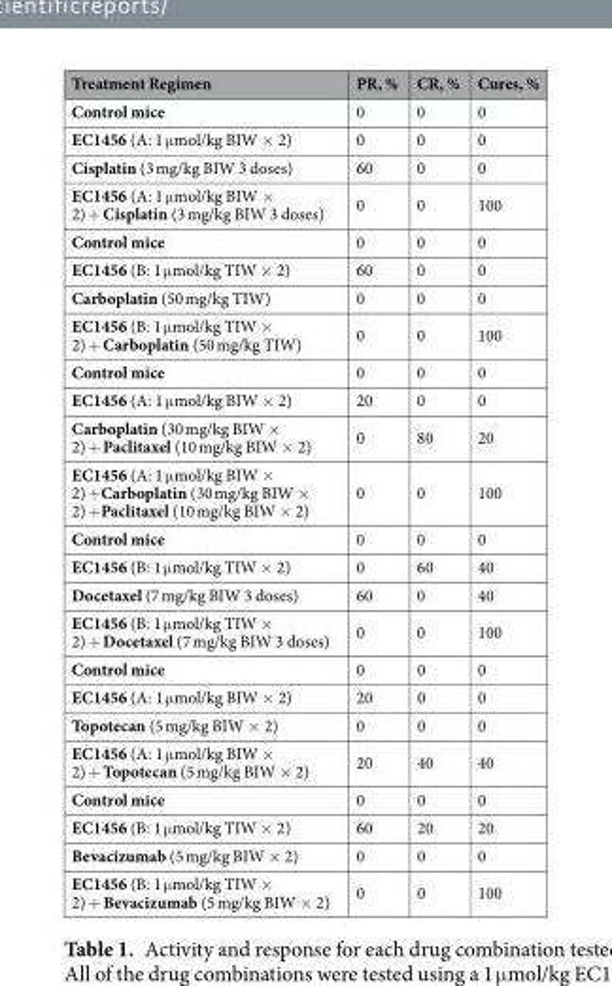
<table><thead><tr><td>Treatment Regimen</td><td>PR, %</td><td>CR, %</td><td>Cures, %</td></tr></thead><tbody><tr><td>Control mice</td><td>0</td><td>0</td><td>0</td></tr><tr><td>EC1456 (A: 1 μmol/kg BIW × 2)</td><td>0</td><td>0</td><td>0</td></tr><tr><td>Cisplatin (3 mg/kg BIW 3 doses)</td><td>60</td><td>0</td><td>0</td></tr><tr><td>EC1456 (A: 1 μmol/kg BIW × 2) + Cisplatin (3 mg/kg BIW 3 doses)</td><td>0</td><td>0</td><td>100</td></tr><tr><td>Control mice</td><td>0</td><td>0</td><td>0</td></tr><tr><td>EC1456 (B: 1 μmol/kg TIW × 2)</td><td>60</td><td>0</td><td>0</td></tr><tr><td>Carboplatin (50 mg/kg TIW)</td><td>0</td><td>0</td><td>0</td></tr><tr><td>EC1456 (B: 1 μmol/kg TIW × 2) + Carboplatin (50 mg/kg TIW)</td><td>0</td><td>0</td><td>100</td></tr><tr><td>Control mice</td><td>0</td><td>0</td><td>0</td></tr><tr><td>EC1456 (A: 1 μmol/kg BIW × 2)</td><td>20</td><td>0</td><td>0</td></tr><tr><td>Carboplatin (30 mg/kg BIW × 2) + Paclitaxel (10 mg/kg BIW × 2)</td><td>0</td><td>80</td><td>20</td></tr><tr><td>EC1456 (A: 1 μmol/kg BIW × 2) +Carboplatin (30 mg/kg BIW × 2) +Paclitaxel (10 mg/kg BIW × 2)</td><td>0</td><td>0</td><td>100</td></tr><tr><td>Control mice</td><td>0</td><td>0</td><td>0</td></tr><tr><td>EC1456 (B: 1 μmol/kg TIW × 2)</td><td>0</td><td>60</td><td>40</td></tr><tr><td>Docetaxel (7 mg/kg BIW 3 doses)</td><td>60</td><td>0</td><td>40</td></tr><tr><td>EC1456 (B: 1 μmol/kg TIW × 2) + Docetaxel (7 mg/kg BIW 3 doses)</td><td>0</td><td>0</td><td>100</td></tr><tr><td>Control mice</td><td>0</td><td>0</td><td>0</td></tr><tr><td>EC1456 (A: 1 μmol/kg BIW × 2)</td><td>20</td><td>0</td><td>0</td></tr><tr><td>Topotecan (5 mg/kg BIW × 2)</td><td>0</td><td>0</td><td>0</td></tr><tr><td>EC1456 (A: 1 μmol/kg BIW × 2) + Topotecan (5 mg/kg BIW × 2)</td><td>20</td><td>40</td><td>40</td></tr><tr><td>Control mice</td><td>0</td><td>0</td><td>0</td></tr><tr><td>EC1456 (B: 1 μmol/kg TIW × 2)</td><td>60</td><td>20</td><td>20</td></tr><tr><td>Bevacizumab (5 mg/kg BIW × 2)</td><td>0</td><td>0</td><td>0</td></tr><tr><td>EC1456 (B: 1 μmol/kg TIW × 2) + Bevacizumab (5 mg/kg BIW × 2)</td><td>0</td><td>0</td><td>100</td></tr></tbody></table>